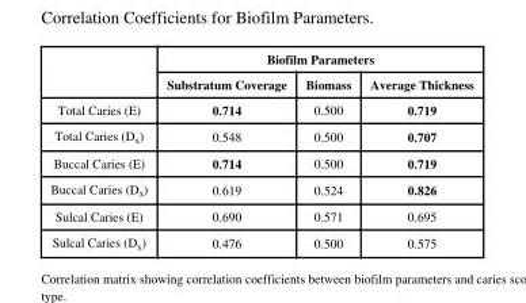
<table><thead><tr><td rowspan="2"></td><td colspan="3">Biofilm Parameters</td></tr><tr><td>Substratum Coverage</td><td>Biomass</td><td>Average Thickness</td></tr></thead><tbody><tr><td>Total Caries (E)</td><td>0.714</td><td>0.500</td><td>0.719</td></tr><tr><td>Total Caries (D<sub>x</sub>)</td><td>0.548</td><td>0.500</td><td>0.707</td></tr><tr><td>Buccal Caries (E)</td><td>0.714</td><td>0.500</td><td>0.719</td></tr><tr><td>Buccal Caries (D<sub>x</sub>)</td><td>0.619</td><td>0.524</td><td>0.826</td></tr><tr><td>Sulcal Caries (E)</td><td>0.690</td><td>0.571</td><td>0.695</td></tr><tr><td>Sulcal Caries (D<sub>x</sub>)</td><td>0.476</td><td>0.500</td><td>0.575</td></tr></tbody></table>